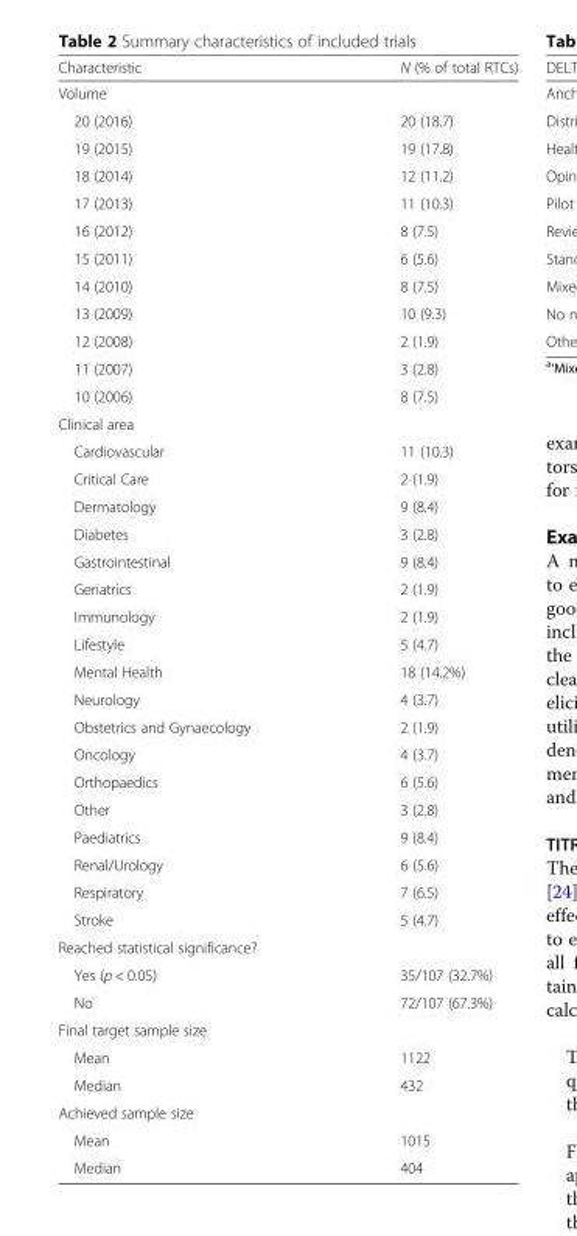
<table><thead><tr><td>Characteristic</td><td>N (% of total RTCs)</td></tr></thead><tbody><tr><td colspan="2">Volume</td></tr><tr><td>20 (2016)</td><td>20 (18.7)</td></tr><tr><td>19 (2015)</td><td>19 (17.8)</td></tr><tr><td>18 (2014)</td><td>12 (11.2)</td></tr><tr><td>17 (2013)</td><td>11 (10.3)</td></tr><tr><td>16 (2012)</td><td>8 (7.5)</td></tr><tr><td>15 (2011)</td><td>6 (5.6)</td></tr><tr><td>14 (2010)</td><td>8 (7.5)</td></tr><tr><td>13 (2009)</td><td>10 (9.3)</td></tr><tr><td>12 (2008)</td><td>2 (1.9)</td></tr><tr><td>11 (2007)</td><td>3 (2.8)</td></tr><tr><td>10 (2006)</td><td>8 (7.5)</td></tr><tr><td colspan="2">Clinical area</td></tr><tr><td>Cardiovascular</td><td>11 (10.3)</td></tr><tr><td>Critical Care</td><td>2 (1.9)</td></tr><tr><td>Dermatology</td><td>9 (8.4)</td></tr><tr><td>Diabetes</td><td>3 (2.8)</td></tr><tr><td>Gastrointestinal</td><td>9 (8.4)</td></tr><tr><td>Geriatrics</td><td>2 (1.9)</td></tr><tr><td>Immunology</td><td>2 (1.9)</td></tr><tr><td>Lifestyle</td><td>5 (4.7)</td></tr><tr><td>Mental Health</td><td>18 (14.2%)</td></tr><tr><td>Neurology</td><td>4 (3.7)</td></tr><tr><td>Obstetrics and Gynaecology</td><td>2 (1.9)</td></tr><tr><td>Oncology</td><td>4 (3.7)</td></tr><tr><td>Orthopaedics</td><td>6 (5.6)</td></tr><tr><td>Other</td><td>3 (2.8)</td></tr><tr><td>Paediatrics</td><td>9 (8.4)</td></tr><tr><td>Renal/Urology</td><td>6 (5.6)</td></tr><tr><td>Respiratory</td><td>7 (6.5)</td></tr><tr><td>Stroke</td><td>5 (4.7)</td></tr><tr><td colspan="2">Reached statistical significance?</td></tr><tr><td>Yes (p &lt; 0.05)</td><td>35/107 (32.7%)</td></tr><tr><td>No</td><td>72/107 (67.3%)</td></tr><tr><td colspan="2">Final target sample size</td></tr><tr><td>Mean</td><td>1122</td></tr><tr><td>Median</td><td>432</td></tr><tr><td colspan="2">Achieved sample size</td></tr><tr><td>Mean</td><td>1015</td></tr><tr><td>Median</td><td>404</td></tr></tbody></table>